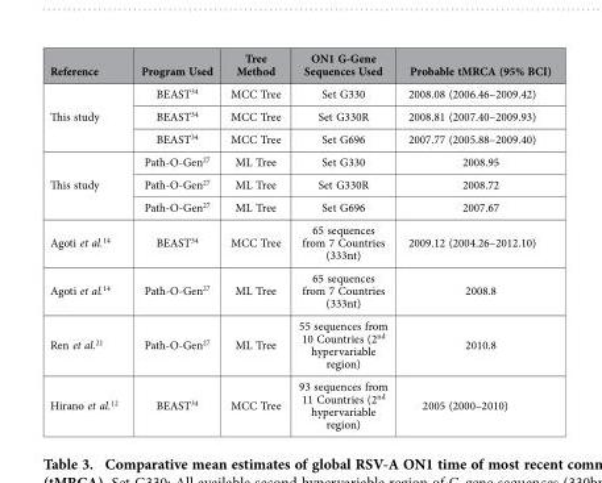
<table><thead><tr><td>Reference</td><td>Program Used</td><td>Tree Method</td><td>ON1 G-Gene Sequences Used</td><td>Probable tMRCA (95% BCI)</td></tr></thead><tbody><tr><td rowspan="3">This study</td><td>BEAST<sup>34</sup></td><td>MCC Tree</td><td>Set G330</td><td>2008.08 (2006.46–2009.42)</td></tr><tr><td>BEAST<sup>34</sup></td><td>MCC Tree</td><td>Set G330R</td><td>2008.81 (2007.40–2009.93)</td></tr><tr><td>BEAST<sup>34</sup></td><td>MCC Tree</td><td>Set G696</td><td>2007.77 (2005.88–2009.40)</td></tr><tr><td rowspan="3">This study</td><td>Path-O-Gen<sup>27</sup></td><td>ML Tree</td><td>Set G330</td><td>2008.95</td></tr><tr><td>Path-O-Gen<sup>27</sup></td><td>ML Tree</td><td>Set G330R</td><td>2008.72</td></tr><tr><td>Path-O-Gen<sup>27</sup></td><td>ML Tree</td><td>Set G696</td><td>2007.67</td></tr><tr><td>Agoti et al.<sup>14</sup></td><td>BEAST<sup>34</sup></td><td>MCC Tree</td><td>65 sequences from 7 Countries (333nt)</td><td>2009.12 (2004.26–2012.10)</td></tr><tr><td>Agoti et al.<sup>14</sup></td><td>Path-O-Gen<sup>27</sup></td><td>ML Tree</td><td>65 sequences from 7 Countries (333nt)</td><td>2008.8</td></tr><tr><td>Ren et al.<sup>21</sup></td><td>Path-O-Gen<sup>27</sup></td><td>ML Tree</td><td>55 sequences from 10 Countries (2<sup>nd</sup> hypervariable region)</td><td>2010.8</td></tr><tr><td>Hirano et al.<sup>12</sup></td><td>BEAST<sup>34</sup></td><td>MCC Tree</td><td>93 sequences from 11 Countries (2<sup>nd</sup> hypervariable region)</td><td>2005 (2000–2010)</td></tr></tbody></table>